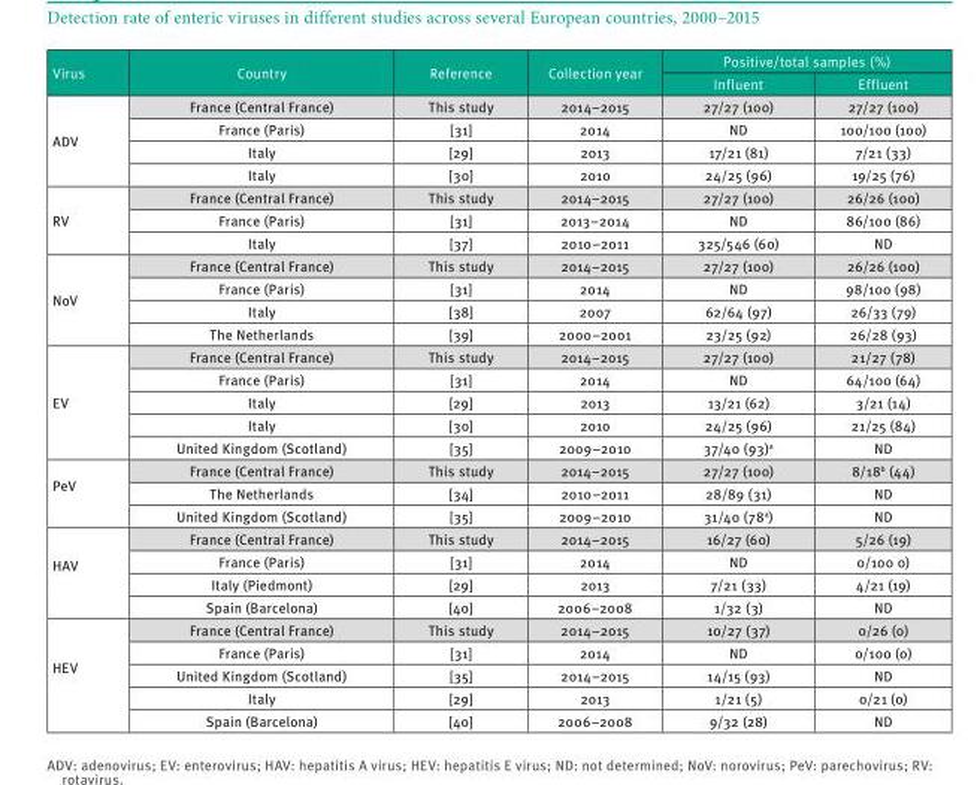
<table><thead><tr><td rowspan="2">Virus</td><td rowspan="2">Country</td><td rowspan="2">Reference</td><td rowspan="2">Collection year</td><td colspan="2">Positive/total samples (%)</td></tr><tr><td>Influent</td><td>Effluent</td></tr></thead><tbody><tr><td rowspan="4">ADV</td><td>France (Central France)</td><td>This study</td><td>2014–2015</td><td>27/27 (100)</td><td>27/27 (100)</td></tr><tr><td>France (Paris)</td><td>[31]</td><td>2014</td><td>ND</td><td>100/100 (100)</td></tr><tr><td>Italy</td><td>[29]</td><td>2013</td><td>17/21 (81)</td><td>7/21 (33)</td></tr><tr><td>Italy</td><td>[30]</td><td>2010</td><td>24/25 (96)</td><td>19/25 (76)</td></tr><tr><td rowspan="3">RV</td><td>France (Central France)</td><td>This study</td><td>2014–2015</td><td>27/27 (100)</td><td>26/26 (100)</td></tr><tr><td>France (Paris)</td><td>[31]</td><td>2013–2014</td><td>ND</td><td>86/100 (86)</td></tr><tr><td>Italy</td><td>[37]</td><td>2010–2011</td><td>325/546 (60)</td><td>ND</td></tr><tr><td rowspan="4">NoV</td><td>France (Central France)</td><td>This study</td><td>2014–2015</td><td>27/27 (100)</td><td>26/26 (100)</td></tr><tr><td>France (Paris)</td><td>[31]</td><td>2014</td><td>ND</td><td>98/100 (98)</td></tr><tr><td>Italy</td><td>[38]</td><td>2007</td><td>62/64 (97)</td><td>26/33 (79)</td></tr><tr><td>The Netherlands</td><td>[39]</td><td>2000–2001</td><td>23/25 (92)</td><td>26/28 (93)</td></tr><tr><td rowspan="5">EV</td><td>France (Central France)</td><td>This study</td><td>2014–2015</td><td>27/27 (100)</td><td>21/27 (78)</td></tr><tr><td>France (Paris)</td><td>[31]</td><td>2014</td><td>ND</td><td>64/100 (64)</td></tr><tr><td>Italy</td><td>[29]</td><td>2013</td><td>13/21 (62)</td><td>3/21 (14)</td></tr><tr><td>Italy</td><td>[30]</td><td>2010</td><td>24/25 (96)</td><td>21/25 (84)</td></tr><tr><td>United Kingdom (Scotland)</td><td>[35]</td><td>2009–2010</td><td>37/40 (93)<sup>a</sup></td><td>ND</td></tr><tr><td rowspan="3">PeV</td><td>France (Central France)</td><td>This study</td><td>2014–2015</td><td>27/27 (100)</td><td>8/18<sup>b</sup> (44)</td></tr><tr><td>The Netherlands</td><td>[34]</td><td>2010–2011</td><td>28/89 (31)</td><td>ND</td></tr><tr><td>United Kingdom (Scotland)</td><td>[35]</td><td>2009–2010</td><td>31/40 (78<sup>a</sup>)</td><td>ND</td></tr><tr><td rowspan="4">HAV</td><td>France (Central France)</td><td>This study</td><td>2014–2015</td><td>16/27 (60)</td><td>5/26 (19)</td></tr><tr><td>France (Paris)</td><td>[31]</td><td>2014</td><td>ND</td><td>0/100 0)</td></tr><tr><td>Italy (Piedmont)</td><td>[29]</td><td>2013</td><td>7/21 (33)</td><td>4/21 (19)</td></tr><tr><td>Spain (Barcelona)</td><td>[40]</td><td>2006–2008</td><td>1/32 (3)</td><td>ND</td></tr><tr><td rowspan="5">HEV</td><td>France (Central France)</td><td>This study</td><td>2014–2015</td><td>10/27 (37)</td><td>0/26 (0)</td></tr><tr><td>France (Paris)</td><td>[31]</td><td>2014</td><td>ND</td><td>0/100 (0)</td></tr><tr><td>United Kingdom (Scotland)</td><td>[35]</td><td>2014–2015</td><td>14/15 (93)</td><td>ND</td></tr><tr><td>Italy</td><td>[29]</td><td>2013</td><td>1/21 (5)</td><td>0/21 (0)</td></tr><tr><td>Spain (Barcelona)</td><td>[40]</td><td>2006–2008</td><td>9/32 (28)</td><td>ND</td></tr></tbody></table>